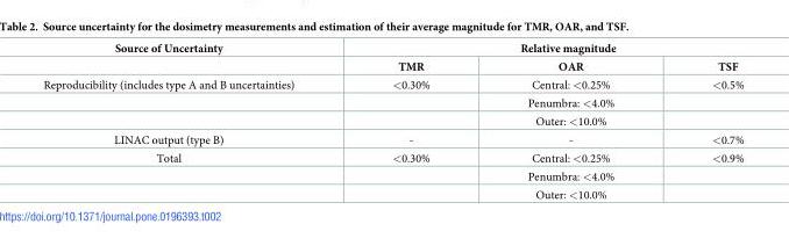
<table><thead><tr><td rowspan="2">Source of Uncertainty</td><td colspan="3">Relative magnitude</td></tr><tr><td>TMR</td><td>OAR</td><td>TSF</td></tr></thead><tbody><tr><td rowspan="3">Reproducibility (includes type A and B uncertainties)</td><td>&lt;0.30%</td><td>Central: &lt;0.25%</td><td>&lt;0.5%</td></tr><tr><td></td><td>Penumbra: &lt;4.0%</td><td></td></tr><tr><td></td><td>Outer: &lt;10.0%</td><td></td></tr><tr><td>LINAC output (type B)</td><td>-</td><td>-</td><td>&lt;0.7%</td></tr><tr><td rowspan="3">Total</td><td>&lt;0.30%</td><td>Central: &lt;0.25%</td><td>&lt;0.9%</td></tr><tr><td></td><td>Penumbra: &lt;4.0%</td><td></td></tr><tr><td></td><td>Outer: &lt;10.0%</td><td></td></tr></tbody></table>